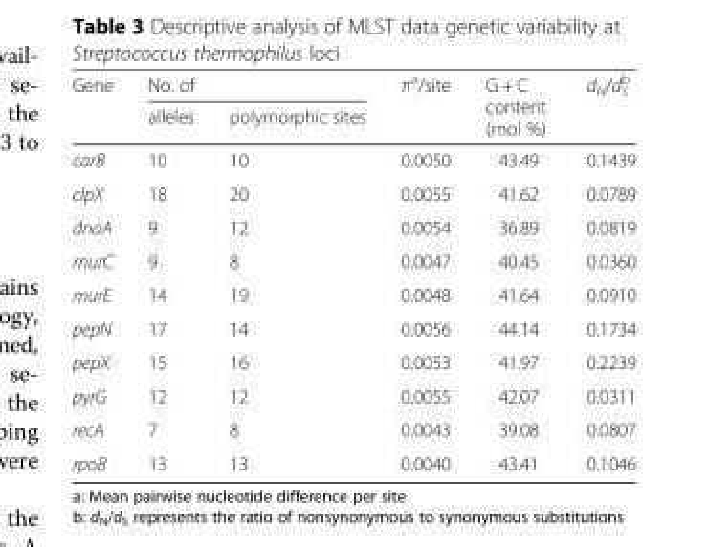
<table><thead><tr><td rowspan="2">Gene</td><td colspan="2">No. of</td><td rowspan="2">π<sup>a</sup>/site</td><td rowspan="2">G + C content (mol %)</td><td rowspan="2">d<sub>N</sub>/d<sub>S</sub> <sup>b</sup></td></tr><tr><td>alleles</td><td>polymorphic sites</td></tr></thead><tbody><tr><td>carB</td><td>10</td><td>10</td><td>0.0050</td><td>43.49</td><td>0.1439</td></tr><tr><td>clpX</td><td>18</td><td>20</td><td>0.0055</td><td>41.62</td><td>0.0789</td></tr><tr><td>dnaA</td><td>9</td><td>12</td><td>0.0054</td><td>36.89</td><td>0.0819</td></tr><tr><td>murC</td><td>9</td><td>8</td><td>0.0047</td><td>40.45</td><td>0.0360</td></tr><tr><td>murE</td><td>14</td><td>19</td><td>0.0048</td><td>41.64</td><td>0.0910</td></tr><tr><td>pepN</td><td>17</td><td>14</td><td>0.0056</td><td>44.14</td><td>0.1734</td></tr><tr><td>pepX</td><td>15</td><td>16</td><td>0.0053</td><td>41.97</td><td>0.2239</td></tr><tr><td>pyrG</td><td>12</td><td>12</td><td>0.0055</td><td>42.07</td><td>0.0311</td></tr><tr><td>recA</td><td>7</td><td>8</td><td>0.0043</td><td>39.08</td><td>0.0807</td></tr><tr><td>rpoB</td><td>13</td><td>13</td><td>0.0040</td><td>43.41</td><td>0.1046</td></tr></tbody></table>